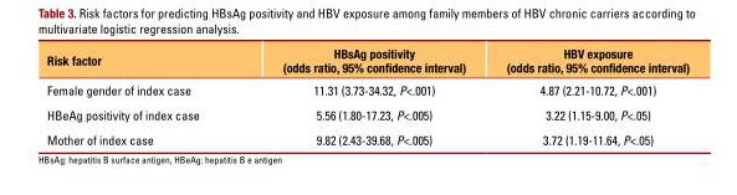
<table><thead><tr><td>Risk factor</td><td>HBsAg positivity (odds ratio, 95% confidence interval)</td><td>HBV exposure (odds ratio, 95% confidence interval)</td></tr></thead><tbody><tr><td>Female gender of index case</td><td>11.31 (3.73-34.32, P&lt;.001)</td><td>4.87 (2.21-10.72, P&lt;.001)</td></tr><tr><td>hbeAg positivity of index case</td><td>5.56 (1.80-17.23, P&lt;.005)</td><td>3.22 (1.15-9.00, P&lt;.05)</td></tr><tr><td>Mother of index case</td><td>9.82 (2.43-39.68, P&lt;.005)</td><td>3.72 (1.19-11.64, P&lt;.05)</td></tr></tbody></table>